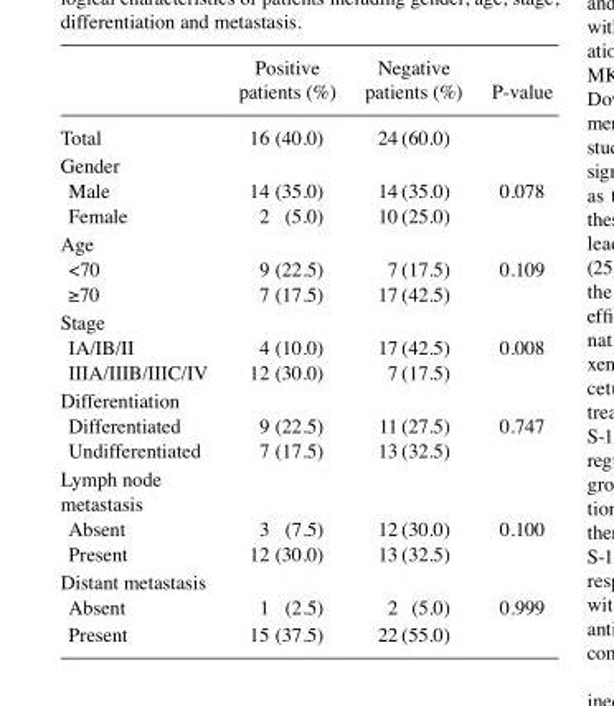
<table><thead><tr><td></td><td>Positive patients (%)</td><td>Negative patients (%)</td><td>P-value</td></tr></thead><tbody><tr><td>Total</td><td>16 (40.0)</td><td>24 (60.0)</td><td></td></tr><tr><td colspan="4">Gender</td></tr><tr><td>Male</td><td>14 (35.0)</td><td>14 (35.0)</td><td>0.078</td></tr><tr><td>Female</td><td>2 (5.0)</td><td>10 (25.0)</td><td></td></tr><tr><td colspan="4">Age</td></tr><tr><td>&lt;70</td><td>9 (22.5)</td><td>7 (17.5)</td><td>0.109</td></tr><tr><td>≥70</td><td>7 (17.5)</td><td>17 (42.5)</td><td></td></tr><tr><td colspan="4">Stage</td></tr><tr><td>IA/IB/Ⅱ</td><td>4 (10.0)</td><td>17 (42.5)</td><td>0.008</td></tr><tr><td>ⅢA/ⅢB/ⅢC/Ⅳ</td><td>12 (30.0)</td><td>7 (17.5)</td><td></td></tr><tr><td colspan="4">Differentiation</td></tr><tr><td>Differentiated</td><td>9 (22.5)</td><td>11 (27.5)</td><td>0.747</td></tr><tr><td>Undifferentiated</td><td>7 (17.5)</td><td>13 (32.5)</td><td></td></tr><tr><td colspan="4">Lymph node metastasis</td></tr><tr><td>Absent</td><td>3 (7.5)</td><td>12 (30.0)</td><td>0.100</td></tr><tr><td>Present</td><td>12 (30.0)</td><td>13 (32.5)</td><td></td></tr><tr><td colspan="4">Distant metastasis</td></tr><tr><td>Absent</td><td>1 (2.5)</td><td>2 (5.0)</td><td>0.999</td></tr><tr><td>Present</td><td>15 (37.5)</td><td>22 (55.0)</td><td></td></tr></tbody></table>